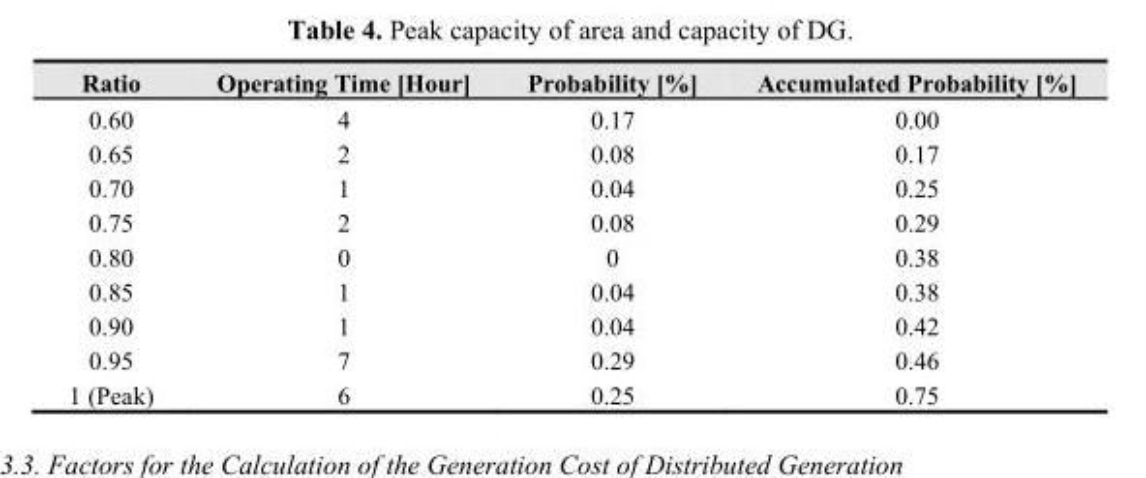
<table><thead><tr><td>Ratio</td><td>Operating Time [Hour]</td><td>Probability [%]</td><td>Accumulated Probability [%]</td></tr></thead><tbody><tr><td>0.60</td><td>4</td><td>0.17</td><td>0.00</td></tr><tr><td>0.65</td><td>2</td><td>0.08</td><td>0.17</td></tr><tr><td>0.70</td><td>1</td><td>0.04</td><td>0.25</td></tr><tr><td>0.75</td><td>2</td><td>0.08</td><td>0.29</td></tr><tr><td>0.80</td><td>0</td><td>0</td><td>0.38</td></tr><tr><td>0.85</td><td>1</td><td>0.04</td><td>0.38</td></tr><tr><td>0.90</td><td>1</td><td>0.04</td><td>0.42</td></tr><tr><td>0.95</td><td>7</td><td>0.29</td><td>0.46</td></tr><tr><td>1 (Peak)</td><td>6</td><td>0.25</td><td>0.75</td></tr></tbody></table>